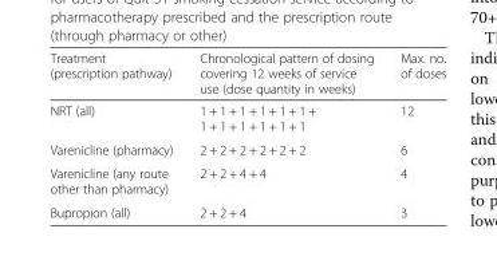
<table><thead><tr><td>Treatment (prescription pathway)</td><td>Chronological pattern of dosing covering 12 weeks of service use (dose quantity in weeks)</td><td>Max. no. of doses</td></tr></thead><tbody><tr><td>NRT (all)</td><td>1 + 1 + 1 + 1 + 1 + 1 + 1 + 1 + 1 + 1 + 1 + 1</td><td>12</td></tr><tr><td>Varenicline (pharmacy)</td><td>2 + 2 + 2 + 2 + 2 + 2</td><td>6</td></tr><tr><td>Varenicline (any route other than pharmacy)</td><td>2 + 2 + 4 + 4</td><td>4</td></tr><tr><td>Bupropion (all)</td><td>2 + 2 + 4</td><td>3</td></tr></tbody></table>